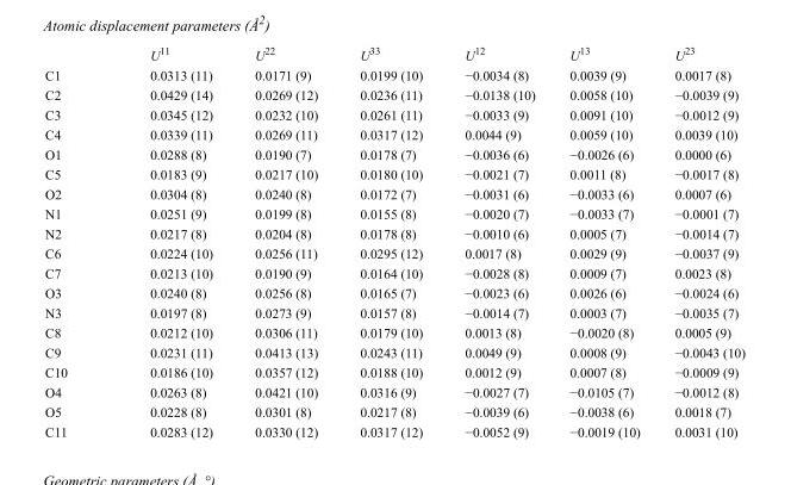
<table><thead><tr><td></td><td>U<sup>11</sup></td><td>U<sup>22</sup></td><td>U<sup>33</sup></td><td>U<sup>12</sup></td><td>U<sup>13</sup></td><td>U<sup>23</sup></td></tr></thead><tbody><tr><td>C1</td><td>0.0313 (11)</td><td>0.0171 (9)</td><td>0.0199 (10)</td><td>−0.0034 (8)</td><td>0.0039 (9)</td><td>0.0017 (8)</td></tr><tr><td>C2</td><td>0.0429 (14)</td><td>0.0269 (12)</td><td>0.0236 (11)</td><td>−0.0138 (10)</td><td>0.0058 (10)</td><td>−0.0039 (9)</td></tr><tr><td>C3</td><td>0.0345 (12)</td><td>0.0232 (10)</td><td>0.0261 (11)</td><td>−0.0033 (9)</td><td>0.0091 (10)</td><td>−0.0012 (9)</td></tr><tr><td>C4</td><td>0.0339 (11)</td><td>0.0269 (11)</td><td>0.0317 (12)</td><td>0.0044 (9)</td><td>0.0059 (10)</td><td>0.0039 (10)</td></tr><tr><td>O1</td><td>0.0288 (8)</td><td>0.0190 (7)</td><td>0.0178 (7)</td><td>−0.0036 (6)</td><td>−0.0026 (6)</td><td>0.0000 (6)</td></tr><tr><td>C5</td><td>0.0183 (9)</td><td>0.0217 (10)</td><td>0.0180 (10)</td><td>−0.0021 (7)</td><td>0.0011 (8)</td><td>−0.0017 (8)</td></tr><tr><td>O2</td><td>0.0304 (8)</td><td>0.0240 (8)</td><td>0.0172 (7)</td><td>−0.0031 (6)</td><td>−0.0033 (6)</td><td>0.0007 (6)</td></tr><tr><td>N1</td><td>0.0251 (9)</td><td>0.0199 (8)</td><td>0.0155 (8)</td><td>−0.0020 (7)</td><td>−0.0033 (7)</td><td>−0.0001 (7)</td></tr><tr><td>N2</td><td>0.0217 (8)</td><td>0.0204 (8)</td><td>0.0178 (8)</td><td>−0.0010 (6)</td><td>0.0005 (7)</td><td>−0.0014 (7)</td></tr><tr><td>C6</td><td>0.0224 (10)</td><td>0.0256 (11)</td><td>0.0295 (12)</td><td>0.0017 (8)</td><td>0.0029 (9)</td><td>−0.0037 (9)</td></tr><tr><td>C7</td><td>0.0213 (10)</td><td>0.0190 (9)</td><td>0.0164 (10)</td><td>−0.0028 (8)</td><td>0.0009 (7)</td><td>0.0023 (8)</td></tr><tr><td>O3</td><td>0.0240 (8)</td><td>0.0256 (8)</td><td>0.0165 (7)</td><td>−0.0023 (6)</td><td>0.0026 (6)</td><td>−0.0024 (6)</td></tr><tr><td>N3</td><td>0.0197 (8)</td><td>0.0273 (9)</td><td>0.0157 (8)</td><td>−0.0014 (7)</td><td>0.0003 (7)</td><td>−0.0035 (7)</td></tr><tr><td>C8</td><td>0.0212 (10)</td><td>0.0306 (11)</td><td>0.0179 (10)</td><td>0.0013 (8)</td><td>−0.0020 (8)</td><td>0.0005 (9)</td></tr><tr><td>C9</td><td>0.0231 (11)</td><td>0.0413 (13)</td><td>0.0243 (11)</td><td>0.0049 (9)</td><td>0.0008 (9)</td><td>−0.0043 (10)</td></tr><tr><td>C10</td><td>0.0186 (10)</td><td>0.0357 (12)</td><td>0.0188 (10)</td><td>0.0012 (9)</td><td>0.0007 (8)</td><td>−0.0009 (9)</td></tr><tr><td>O4</td><td>0.0263 (8)</td><td>0.0421 (10)</td><td>0.0316 (9)</td><td>−0.0027 (7)</td><td>−0.0105 (7)</td><td>−0.0012 (8)</td></tr><tr><td>O5</td><td>0.0228 (8)</td><td>0.0301 (8)</td><td>0.0217 (8)</td><td>−0.0039 (6)</td><td>−0.0038 (6)</td><td>0.0018 (7)</td></tr><tr><td>C11</td><td>0.0283 (12)</td><td>0.0330 (12)</td><td>0.0317 (12)</td><td>−0.0052 (9)</td><td>−0.0019 (10)</td><td>0.0031 (10)</td></tr></tbody></table>